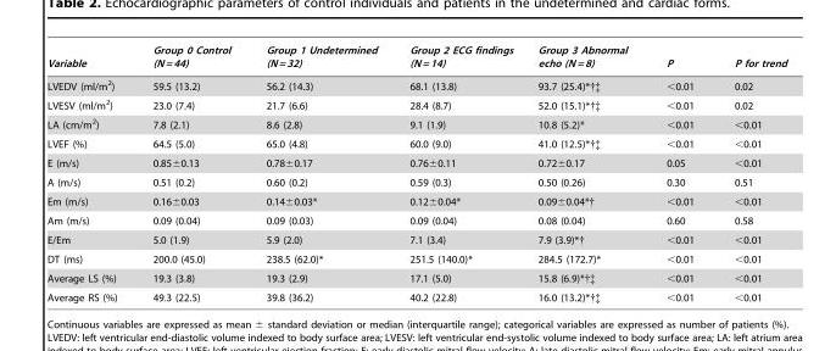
<table><thead><tr><td>Variable</td><td>Group 0 Control (N = 44)</td><td>Group 1 Undetermined (N = 32)</td><td>Group 2 ECG findings (N = 14)</td><td>Group 3 Abnormal echo (N = 8)</td><td>P</td><td>P for trend</td></tr></thead><tbody><tr><td>LVEDV (ml/m<sup>2</sup>)</td><td>59.5 (13.2)</td><td>56.2 (14.3)</td><td>68.1 (13.8)</td><td>93.7 (25.4)*†‡</td><td>&lt;0.01</td><td>0.02</td></tr><tr><td>LVESV (ml/m<sup>2</sup>)</td><td>23.0 (7.4)</td><td>21.7 (6.6)</td><td>28.4 (8.7)</td><td>52.0 (15.1)*†‡</td><td>&lt;0.01</td><td>0.02</td></tr><tr><td>LA (cm/m<sup>2</sup>)</td><td>7.8 (2.1)</td><td>8.6 (2.8)</td><td>9.1 (1.9)</td><td>10.8 (5.2)*</td><td>&lt;0.01</td><td>&lt;0.01</td></tr><tr><td>LVEF (%)</td><td>64.5 (5.0)</td><td>65.0 (4.8)</td><td>60.0 (9.0)</td><td>41.0 (12.5)*†‡</td><td>&lt;0.01</td><td>&lt;0.01</td></tr><tr><td>E (m/s)</td><td>0.85±0.13</td><td>0.78±0.17</td><td>0.76±0.11</td><td>0.72±0.17</td><td>0.05</td><td>&lt;0.01</td></tr><tr><td>A (m/s)</td><td>0.51 (0.2)</td><td>0.60 (0.2)</td><td>0.59 (0.3)</td><td>0.50 (0.26)</td><td>0.30</td><td>0.51</td></tr><tr><td>Em (m/s)</td><td>0.16±0.03</td><td>0.14±0.03*</td><td>0.12±0.04*</td><td>0.09±0.04*†</td><td>&lt;0.01</td><td>&lt;0.01</td></tr><tr><td>Am (m/s)</td><td>0.09 (0.04)</td><td>0.09 (0.03)</td><td>0.09 (0.04)</td><td>0.08 (0.04)</td><td>0.60</td><td>0.58</td></tr><tr><td>E/Em</td><td>5.0 (1.9)</td><td>5.9 (2.0)</td><td>7.1 (3.4)</td><td>7.9 (3.9)*†</td><td>&lt;0.01</td><td>&lt;0.01</td></tr><tr><td>DT (ms)</td><td>200.0 (45.0)</td><td>238.5 (62.0)*</td><td>251.5 (140.0)*</td><td>284.5 (172.7)*</td><td>&lt;0.01</td><td>&lt;0.01</td></tr><tr><td>Average LS (%)</td><td>19.3 (3.8)</td><td>19.3 (2.9)</td><td>17.1 (5.0)</td><td>15.8 (6.9)*†‡</td><td>&lt;0.01</td><td>&lt;0.01</td></tr><tr><td>Average RS (%)</td><td>49.3 (22.5)</td><td>39.8 (36.2)</td><td>40.2 (22.8)</td><td>16.0 (13.2)*†‡</td><td>&lt;0.01</td><td>&lt;0.01</td></tr></tbody></table>